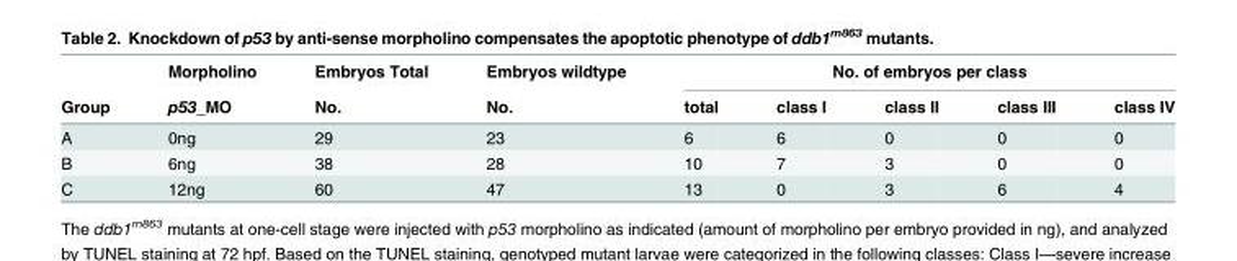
<table><thead><tr><td rowspan="2">Group</td><td rowspan="2">Morpholino p53_MO</td><td rowspan="2">Embryos Total No.</td><td rowspan="2">Embryos wildtype No.</td><td colspan="5">No. of embryos per class</td></tr><tr><td>total</td><td>class I</td><td>class II</td><td>class III</td><td>class IV</td></tr></thead><tbody><tr><td>A</td><td>0ng</td><td>29</td><td>23</td><td>6</td><td>6</td><td>0</td><td>0</td><td>0</td></tr><tr><td>B</td><td>6ng</td><td>38</td><td>28</td><td>10</td><td>7</td><td>3</td><td>0</td><td>0</td></tr><tr><td>C</td><td>12ng</td><td>60</td><td>47</td><td>13</td><td>0</td><td>3</td><td>6</td><td>4</td></tr></tbody></table>